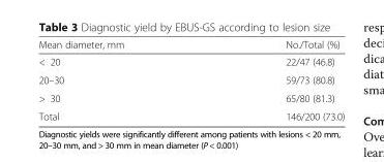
<table><thead><tr><td>Mean diameter, mm</td><td>No./Total (%)</td></tr></thead><tbody><tr><td>&lt; 20</td><td>22/47 (46.8)</td></tr><tr><td>20–30</td><td>59/73 (80.8)</td></tr><tr><td>&gt; 30</td><td>65/80 (81.3)</td></tr><tr><td>Total</td><td>146/200 (73.0)</td></tr></tbody></table>